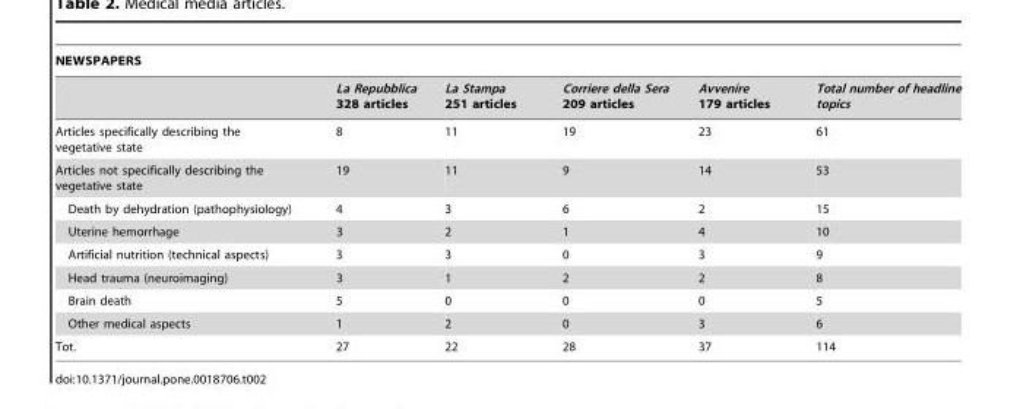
<table><thead><tr><td colspan="6">NEWSPAPERS</td></tr><tr><td></td><td>La Repubblica 328 articles</td><td>La Stampa 251 articles</td><td>Corriere della Sera 209 articles</td><td>Avvenire 179 articles</td><td>Total number of headline topics</td></tr></thead><tbody><tr><td>Articles specifically describing the vegetative state</td><td>8</td><td>11</td><td>19</td><td>23</td><td>61</td></tr><tr><td>Articles not specifically describing the vegetative state</td><td>19</td><td>11</td><td>9</td><td>14</td><td>53</td></tr><tr><td>Death by dehydration (pathophysiology)</td><td>4</td><td>3</td><td>6</td><td>2</td><td>15</td></tr><tr><td>Uterine hemorrhage</td><td>3</td><td>2</td><td>1</td><td>4</td><td>10</td></tr><tr><td>Artificial nutrition (technical aspects)</td><td>3</td><td>3</td><td>0</td><td>3</td><td>9</td></tr><tr><td>Head trauma (neuroimaging)</td><td>3</td><td>1</td><td>2</td><td>2</td><td>8</td></tr><tr><td>Brain death</td><td>5</td><td>0</td><td>0</td><td>0</td><td>5</td></tr><tr><td>Other medical aspects</td><td>1</td><td>2</td><td>0</td><td>3</td><td>6</td></tr><tr><td>Tot.</td><td>27</td><td>22</td><td>28</td><td>37</td><td>114</td></tr></tbody></table>